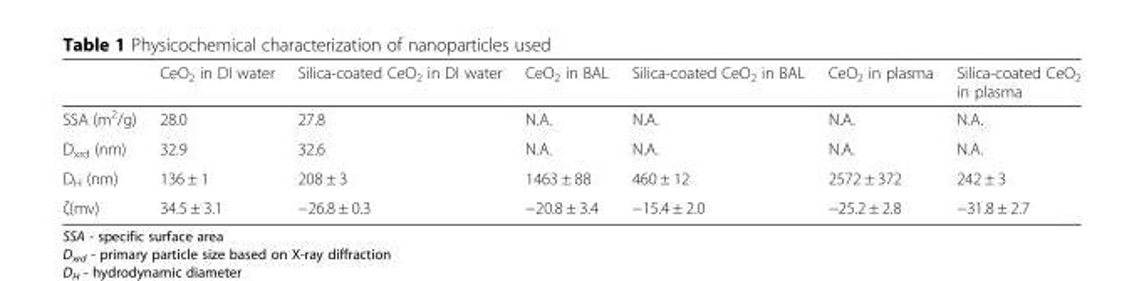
<table><thead><tr><td></td><td>CeO<sub>2</sub> in DI water</td><td>Silica-coated CeO<sub>2</sub> in DI water</td><td>CeO<sub>2</sub> in BAL</td><td>Silica-coated CeO<sub>2</sub> in BAL</td><td>CeO<sub>2</sub> in plasma</td><td>Silica-coated CeO<sub>2</sub> in plasma</td></tr></thead><tbody><tr><td>SSA (m<sup>2</sup>/g)</td><td>28.0</td><td>27.8</td><td>N.A.</td><td>N.A.</td><td>N.A.</td><td>N.A.</td></tr><tr><td>D<sub>xrd</sub> (nm)</td><td>32.9</td><td>32.6</td><td>N.A.</td><td>N.A.</td><td>N.A.</td><td>N.A.</td></tr><tr><td>D<sub>H</sub> (nm)</td><td>136 ± 1</td><td>208 ± 3</td><td>1463 ± 88</td><td>460 ± 12</td><td>2572 ± 372</td><td>242 ± 3</td></tr><tr><td>ζ(mv)</td><td>34.5 ± 3.1</td><td>−26.8 ± 0.3</td><td>−20.8 ± 3.4</td><td>−15.4 ± 2.0</td><td>−25.2 ± 2.8</td><td>−31.8 ± 2.7</td></tr></tbody></table>